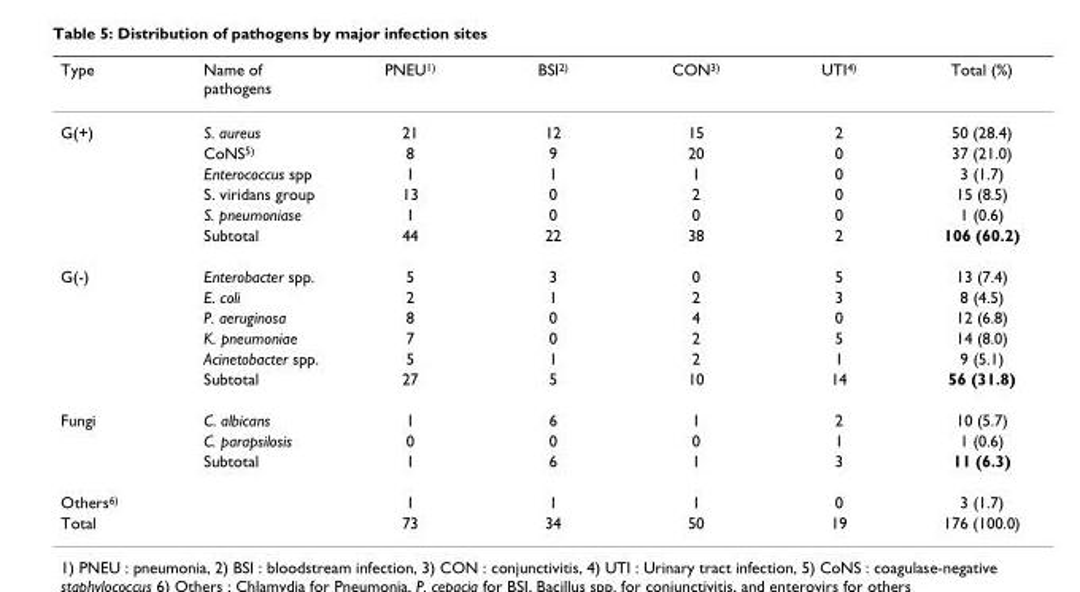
<table><thead><tr><td>Type</td><td>Name of pathogens</td><td>PNEU<sup>1)</sup></td><td>BSI<sup>2)</sup></td><td>CON<sup>3)</sup></td><td>UTI<sup>4)</sup></td><td>Total (%)</td></tr></thead><tbody><tr><td rowspan="6">G(+)</td><td>S. aureus</td><td>21</td><td>12</td><td>15</td><td>2</td><td>50 (28.4)</td></tr><tr><td>CoNS<sup>5)</sup></td><td>8</td><td>9</td><td>20</td><td>0</td><td>37 (21.0)</td></tr><tr><td>Enterococcus spp</td><td>1</td><td>1</td><td>1</td><td>0</td><td>3 (1.7)</td></tr><tr><td>S. viridans group</td><td>13</td><td>0</td><td>2</td><td>0</td><td>15 (8.5)</td></tr><tr><td>S. pneumoniase</td><td>1</td><td>0</td><td>0</td><td>0</td><td>1 (0.6)</td></tr><tr><td>Subtotal</td><td>44</td><td>22</td><td>38</td><td>2</td><td>106 (60.2)</td></tr><tr><td rowspan="6">G(-)</td><td>Enterobacter spp.</td><td>5</td><td>3</td><td>0</td><td>5</td><td>13 (7.4)</td></tr><tr><td>E. coli</td><td>2</td><td>1</td><td>2</td><td>3</td><td>8 (4.5)</td></tr><tr><td>P. aeruginosa</td><td>8</td><td>0</td><td>4</td><td>0</td><td>12 (6.8)</td></tr><tr><td>K. pneumoniae</td><td>7</td><td>0</td><td>2</td><td>5</td><td>14 (8.0)</td></tr><tr><td>Acinetobacter spp.</td><td>5</td><td>1</td><td>2</td><td>1</td><td>9 (5.1)</td></tr><tr><td>Subtotal</td><td>27</td><td>5</td><td>10</td><td>14</td><td>56 (31.8)</td></tr><tr><td rowspan="3">Fungi</td><td>C. albicans</td><td>1</td><td>6</td><td>1</td><td>2</td><td>10 (5.7)</td></tr><tr><td>C. parapsilosis</td><td>0</td><td>0</td><td>0</td><td>1</td><td>1 (0.6)</td></tr><tr><td>Subtotal</td><td>1</td><td>6</td><td>1</td><td>3</td><td>11 (6.3)</td></tr><tr><td>Others<sup>6)</sup></td><td></td><td>1</td><td>1</td><td>1</td><td>0</td><td>3 (1.7)</td></tr><tr><td>Total</td><td></td><td>73</td><td>34</td><td>50</td><td>19</td><td>176 (100.0)</td></tr></tbody></table>